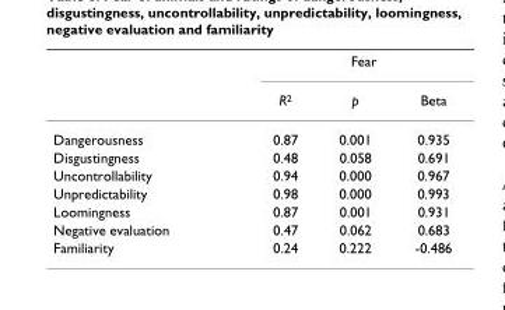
<table><thead><tr><td rowspan="2"></td><td colspan="3">Fear</td></tr><tr><td>R<sup>2</sup></td><td>p</td><td>Beta</td></tr></thead><tbody><tr><td>Dangerousness</td><td>0.87</td><td>0.001</td><td>0.935</td></tr><tr><td>Disgustingness</td><td>0.48</td><td>0.058</td><td>0.691</td></tr><tr><td>Uncontrollability</td><td>0.94</td><td>0.000</td><td>0.967</td></tr><tr><td>Unpredictability</td><td>0.98</td><td>0.000</td><td>0.993</td></tr><tr><td>Loomingness</td><td>0.87</td><td>0.001</td><td>0.931</td></tr><tr><td>Negative evaluation</td><td>0.47</td><td>0.062</td><td>0.683</td></tr><tr><td>Familiarity</td><td>0.24</td><td>0.222</td><td>-0.486</td></tr></tbody></table>